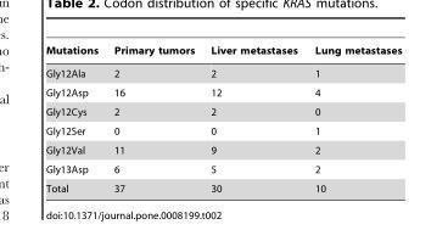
<table><thead><tr><td>Mutations</td><td>Primary tumors</td><td>Liver metastases</td><td>Lung metastases</td></tr></thead><tbody><tr><td>Gly12Ala</td><td>2</td><td>2</td><td>1</td></tr><tr><td>Gly12Asp</td><td>16</td><td>12</td><td>4</td></tr><tr><td>Gly12Cys</td><td>2</td><td>2</td><td>0</td></tr><tr><td>Gly12Ser</td><td>0</td><td>0</td><td>1</td></tr><tr><td>Gly12Val</td><td>11</td><td>9</td><td>2</td></tr><tr><td>Gly13Asp</td><td>6</td><td>5</td><td>2</td></tr><tr><td>Total</td><td>37</td><td>30</td><td>10</td></tr></tbody></table>